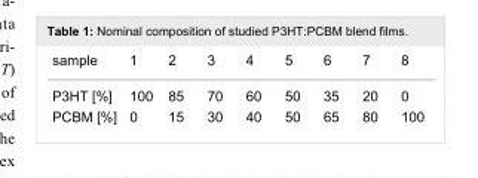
<table><tbody><tr><td>sample</td><td>1</td><td>2</td><td>3</td><td>4</td><td>5</td><td>6</td><td>7</td><td>8</td></tr><tr><td>P3HT [%]</td><td>100</td><td>85</td><td>70</td><td>60</td><td>50</td><td>35</td><td>20</td><td>0</td></tr><tr><td>PCBM [%]</td><td>0</td><td>15</td><td>30</td><td>40</td><td>50</td><td>65</td><td>80</td><td>100</td></tr></tbody></table>